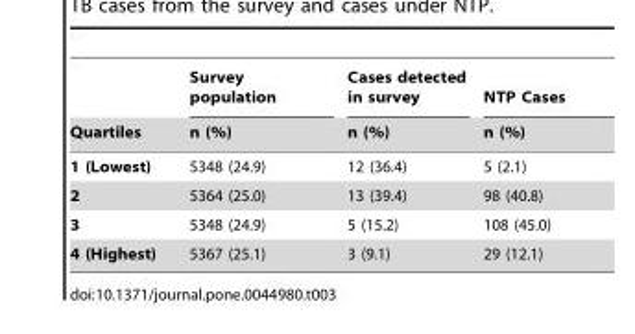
<table><thead><tr><td rowspan="2">Quartiles</td><td rowspan="2">Survey population n (%)</td><td rowspan="2">Cases detected in survey n (%)</td><td rowspan="2">NTP Cases n (%)</td></tr><tr></tr></thead><tbody><tr><td>1 (Lowest)</td><td>5348 (24.9)</td><td>12 (36.4)</td><td>5 (2.1)</td></tr><tr><td>2</td><td>5364 (25.0)</td><td>13 (39.4)</td><td>98 (40.8)</td></tr><tr><td>3</td><td>5348 (24.9)</td><td>5 (15.2)</td><td>108 (45.0)</td></tr><tr><td>4 (Highest)</td><td>5367 (25.1)</td><td>3 (9.1)</td><td>29 (12.1)</td></tr></tbody></table>